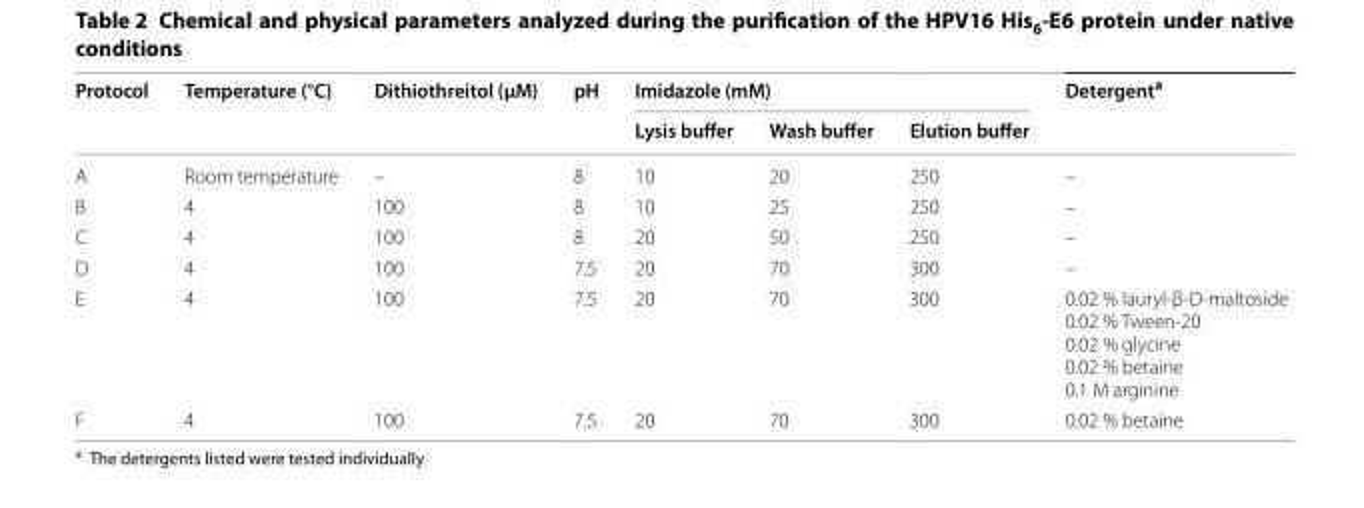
<table><thead><tr><td rowspan="2">Protocol</td><td rowspan="2">Temperature (°C)</td><td rowspan="2">Dithiothreitol (µM)</td><td rowspan="2">pH</td><td colspan="3">Imidazole (mM)</td><td rowspan="2">Detergent<sup>a</sup></td></tr><tr><td>Lysis buffer</td><td>Wash buffer</td><td>Elution buffer</td></tr></thead><tbody><tr><td>A</td><td>Room temperature</td><td>–</td><td>8</td><td>10</td><td>20</td><td>250</td><td>–</td></tr><tr><td>B</td><td>4</td><td>100</td><td>8</td><td>10</td><td>25</td><td>250</td><td>–</td></tr><tr><td>C</td><td>4</td><td>100</td><td>8</td><td>20</td><td>50</td><td>250</td><td>–</td></tr><tr><td>D</td><td>4</td><td>100</td><td>7.5</td><td>20</td><td>70</td><td>300</td><td>–</td></tr><tr><td>E</td><td>4</td><td>100</td><td>7.5</td><td>20</td><td>70</td><td>300</td><td>0.02 % lauryl-β-D-maltoside 0.02 % Tween-20 0.02 % glycine 0.02 % betaine 0.1 M arginine</td></tr><tr><td>F</td><td>4</td><td>100</td><td>7.5</td><td>20</td><td>70</td><td>300</td><td>0.02 % betaine</td></tr></tbody></table>